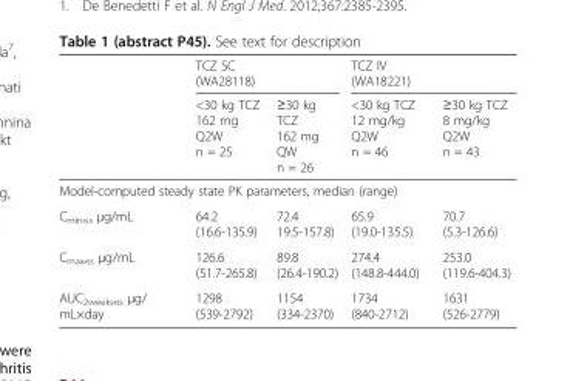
<table><thead><tr><td rowspan="2"></td><td colspan="2">TCZ SC (WA28118)</td><td colspan="2">TCZ IV (WA18221)</td></tr><tr><td>&lt;30 kg TCZ 162 mg Q2W n = 25</td><td>≥30 kg TCZ 162 mg QW n = 26</td><td>&lt;30 kg TCZ 12 mg/kg Q2W n = 46</td><td>≥30 kg TCZ 8 mg/kg Q2W n = 43</td></tr></thead><tbody><tr><td colspan="5">Model-computed steady state PK parameters, median (range)</td></tr><tr><td>C<sub>min</sub>,<sub>ss</sub> μg/mL</td><td>64.2 (16.6-135.9)</td><td>72.4 19.5-157.8)</td><td>65.9 (19.0-135.5)</td><td>70.7 (5.3-126.6)</td></tr><tr><td>C<sub>max</sub>,<sub>ss</sub> μg/mL</td><td>126.6 (51.7-265.8)</td><td>89.8 (26.4-190.2)</td><td>274.4 (148.8-444.0)</td><td>253.0 (119.6-404.3)</td></tr><tr><td>AUC<sub>2weeks</sub>,<sub>ss</sub> μg/ mL×day</td><td>1298 (539-2792)</td><td>1154 (334-2370)</td><td>1734 (840-2712)</td><td>1631 (526-2779)</td></tr></tbody></table>